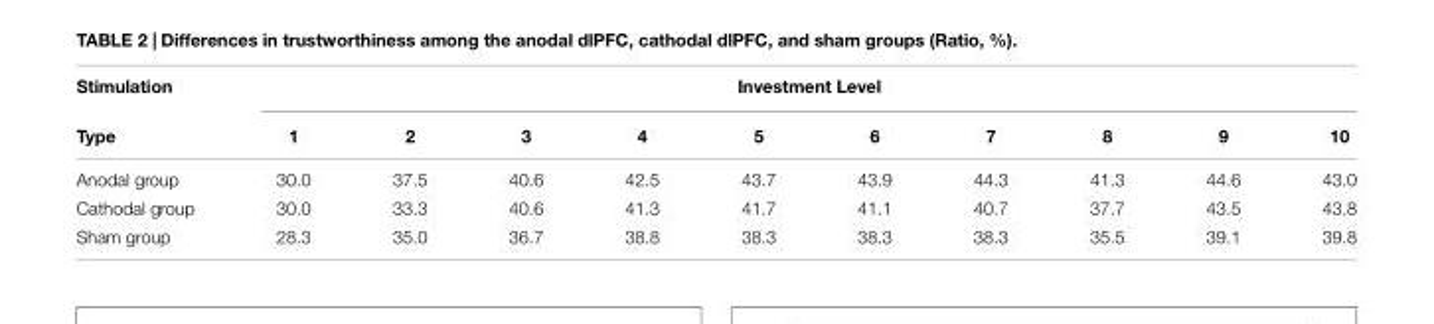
<table><thead><tr><td rowspan="2">Stimulation Type</td><td colspan="10">Investment Level</td></tr><tr><td>1</td><td>2</td><td>3</td><td>4</td><td>5</td><td>6</td><td>7</td><td>8</td><td>9</td><td>10</td></tr></thead><tbody><tr><td>Anodal group</td><td>30.0</td><td>37.5</td><td>40.6</td><td>42.5</td><td>43.7</td><td>43.9</td><td>44.3</td><td>41.3</td><td>44.6</td><td>43.0</td></tr><tr><td>Cathodal group</td><td>30.0</td><td>33.3</td><td>40.6</td><td>41.3</td><td>41.7</td><td>41.1</td><td>40.7</td><td>37.7</td><td>43.5</td><td>43.8</td></tr><tr><td>Sham group</td><td>28.3</td><td>35.0</td><td>36.7</td><td>38.8</td><td>38.3</td><td>38.3</td><td>38.3</td><td>35.5</td><td>39.1</td><td>39.8</td></tr></tbody></table>